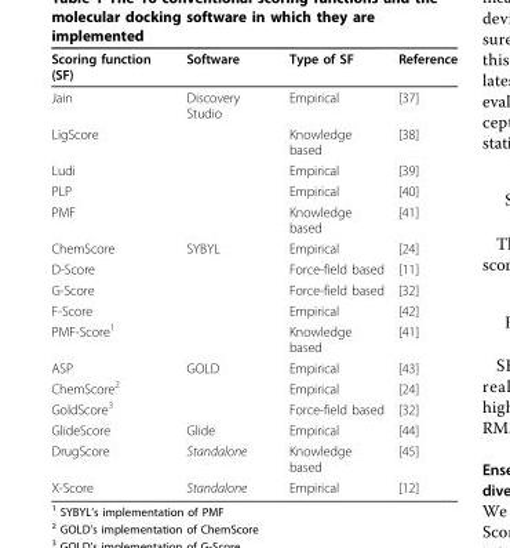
<table><thead><tr><td>Scoring function (SF)</td><td>Software</td><td>Type of SF</td><td>Reference</td></tr></thead><tbody><tr><td>Jain</td><td>Discovery Studio</td><td>Empirical</td><td>[37]</td></tr><tr><td>LigScore</td><td></td><td>Knowledge based</td><td>[38]</td></tr><tr><td>Ludi</td><td></td><td>Empirical</td><td>[39]</td></tr><tr><td>PLP</td><td></td><td>Empirical</td><td>[40]</td></tr><tr><td>PMF</td><td></td><td>Knowledge based</td><td>[41]</td></tr><tr><td>ChemScore</td><td>SYBYL</td><td>Empirical</td><td>[24]</td></tr><tr><td>D-Score</td><td></td><td>Force-field based</td><td>[11]</td></tr><tr><td>G-Score</td><td></td><td>Force-field based</td><td>[32]</td></tr><tr><td>F-Score</td><td></td><td>Empirical</td><td>[42]</td></tr><tr><td>PMF-Score<sup>1</sup></td><td></td><td>Knowledge based</td><td>[41]</td></tr><tr><td>ASP</td><td>GOLD</td><td>Empirical</td><td>[43]</td></tr><tr><td>ChemScore<sup>2</sup></td><td></td><td>Empirical</td><td>[24]</td></tr><tr><td>GoldScore<sup>3</sup></td><td></td><td>Force-field based</td><td>[32]</td></tr><tr><td>GlideScore</td><td>Glide</td><td>Empirical</td><td>[44]</td></tr><tr><td>DrugScore</td><td>Standalone</td><td>Knowledge based</td><td>[45]</td></tr><tr><td>X-Score</td><td>Standalone</td><td>Empirical</td><td>[12]</td></tr></tbody></table>